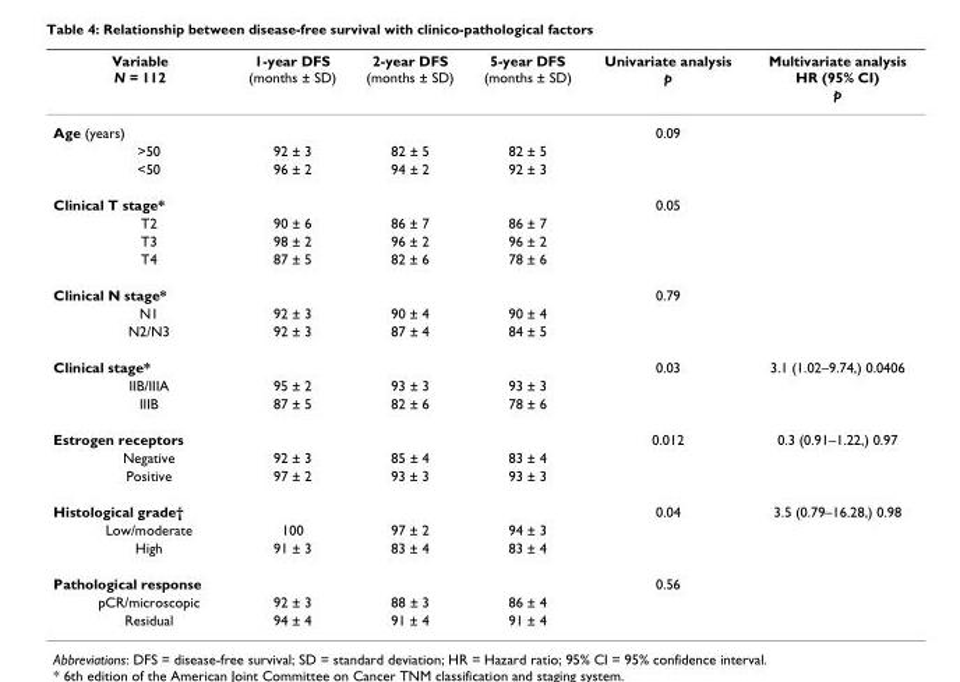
<table><thead><tr><td>Variable N = 112</td><td>1-year DFS (months ± SD)</td><td>2-year DFS (months ± SD)</td><td>5-year DFS (months ± SD)</td><td>Univariate analysis p</td><td>Multivariate analysis HR (95% CI) p</td></tr></thead><tbody><tr><td>Age (years)</td><td></td><td></td><td></td><td>0.09</td><td></td></tr><tr><td>&gt;50</td><td>92 ± 3</td><td>82 ± 5</td><td>82 ± 5</td><td></td><td></td></tr><tr><td>&lt;50</td><td>96 ± 2</td><td>94 ± 2</td><td>92 ± 3</td><td></td><td></td></tr><tr><td>Clinical T stage*</td><td></td><td></td><td></td><td>0.05</td><td></td></tr><tr><td>T2</td><td>90 ± 6</td><td>86 ± 7</td><td>86 ± 7</td><td></td><td></td></tr><tr><td>T3</td><td>98 ± 2</td><td>96 ± 2</td><td>96 ± 2</td><td></td><td></td></tr><tr><td>T4</td><td>87 ± 5</td><td>82 ± 6</td><td>78 ± 6</td><td></td><td></td></tr><tr><td>Clinical N stage*</td><td></td><td></td><td></td><td>0.79</td><td></td></tr><tr><td>N1</td><td>92 ± 3</td><td>90 ± 4</td><td>90 ± 4</td><td></td><td></td></tr><tr><td>N2/N3</td><td>92 ± 3</td><td>87 ± 4</td><td>84 ± 5</td><td></td><td></td></tr><tr><td>Clinical stage*</td><td></td><td></td><td></td><td>0.03</td><td>3.1 (1.02–9.74,) 0.0406</td></tr><tr><td>IIB/IIIA</td><td>95 ± 2</td><td>93 ± 3</td><td>93 ± 3</td><td></td><td></td></tr><tr><td>IIIB</td><td>87 ± 5</td><td>82 ± 6</td><td>78 ± 6</td><td></td><td></td></tr><tr><td>Estrogen receptors</td><td></td><td></td><td></td><td>0.012</td><td>0.3 (0.91–1.22,) 0.97</td></tr><tr><td>Negative</td><td>92 ± 3</td><td>85 ± 4</td><td>83 ± 4</td><td></td><td></td></tr><tr><td>Positive</td><td>97 ± 2</td><td>93 ± 3</td><td>93 ± 3</td><td></td><td></td></tr><tr><td>Histological grade†</td><td></td><td></td><td></td><td>0.04</td><td>3.5 (0.79–16.28,) 0.98</td></tr><tr><td>Low/moderate</td><td>100</td><td>97 ± 2</td><td>94 ± 3</td><td></td><td></td></tr><tr><td>High</td><td>91 ± 3</td><td>83 ± 4</td><td>83 ± 4</td><td></td><td></td></tr><tr><td>Pathological response</td><td></td><td></td><td></td><td>0.56</td><td></td></tr><tr><td>pCR/microscopic</td><td>92 ± 3</td><td>88 ± 3</td><td>86 ± 4</td><td></td><td></td></tr><tr><td>Residual</td><td>94 ± 4</td><td>91 ± 4</td><td>91 ± 4</td><td></td><td></td></tr></tbody></table>